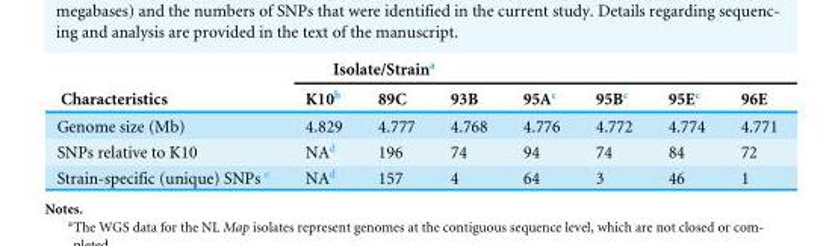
<table><thead><tr><td colspan="8">Isolate/Strain<sup>a</sup></td></tr><tr><td>Characteristics</td><td>K10<sup>b</sup></td><td>89C</td><td>93B</td><td>95A<sup>c</sup></td><td>95B<sup>c</sup></td><td>95E<sup>c</sup></td><td>96E</td></tr></thead><tbody><tr><td>Genome size (Mb)</td><td>4.829</td><td>4.777</td><td>4.768</td><td>4.776</td><td>4.772</td><td>4.774</td><td>4.771</td></tr><tr><td>SNPs relative to K10</td><td>NA<sup>d</sup></td><td>196</td><td>74</td><td>94</td><td>74</td><td>84</td><td>72</td></tr><tr><td>Strain-specific (unique) SNPs <sup>e</sup></td><td>NA<sup>d</sup></td><td>157</td><td>4</td><td>64</td><td>3</td><td>46</td><td>1</td></tr></tbody></table>